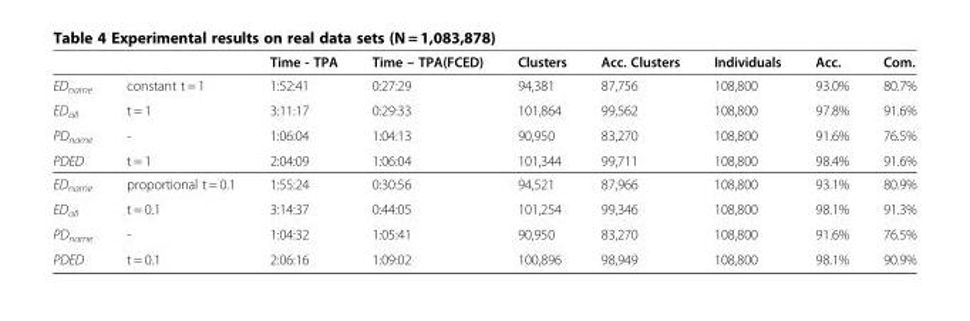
<table><thead><tr><td></td><td></td><td>Time - TPA</td><td>Time – TPA(FCED)</td><td>Clusters</td><td>Acc. Clusters</td><td>Individuals</td><td>Acc.</td><td>Com.</td></tr></thead><tbody><tr><td>ED<sub>name</sub></td><td>constant t = 1</td><td>1:52:41</td><td>0:27:29</td><td>94,381</td><td>87,756</td><td>108,800</td><td>93.0%</td><td>80.7%</td></tr><tr><td>ED<sub>all</sub></td><td>t = 1</td><td>3:11:17</td><td>0:29:33</td><td>101,864</td><td>99,562</td><td>108,800</td><td>97.8%</td><td>91.6%</td></tr><tr><td>PD<sub>name</sub></td><td>-</td><td>1:06:04</td><td>1:04:13</td><td>90,950</td><td>83,270</td><td>108,800</td><td>91.6%</td><td>76.5%</td></tr><tr><td>PDED</td><td>t = 1</td><td>2:04:09</td><td>1:06:04</td><td>101,344</td><td>99,711</td><td>108,800</td><td>98.4%</td><td>91.6%</td></tr><tr><td>ED<sub>name</sub></td><td>proportional t = 0.1</td><td>1:55:24</td><td>0:30:56</td><td>94,521</td><td>87,966</td><td>108,800</td><td>93.1%</td><td>80.9%</td></tr><tr><td>ED<sub>all</sub></td><td>t = 0.1</td><td>3:14:37</td><td>0:44:05</td><td>101,254</td><td>99,346</td><td>108,800</td><td>98.1%</td><td>91.3%</td></tr><tr><td>PD<sub>name</sub></td><td>-</td><td>1:04:32</td><td>1:05:41</td><td>90,950</td><td>83,270</td><td>108,800</td><td>91.6%</td><td>76.5%</td></tr><tr><td>PDED</td><td>t = 0.1</td><td>2:06:16</td><td>1:09:02</td><td>100,896</td><td>98,949</td><td>108,800</td><td>98.1%</td><td>90.9%</td></tr></tbody></table>